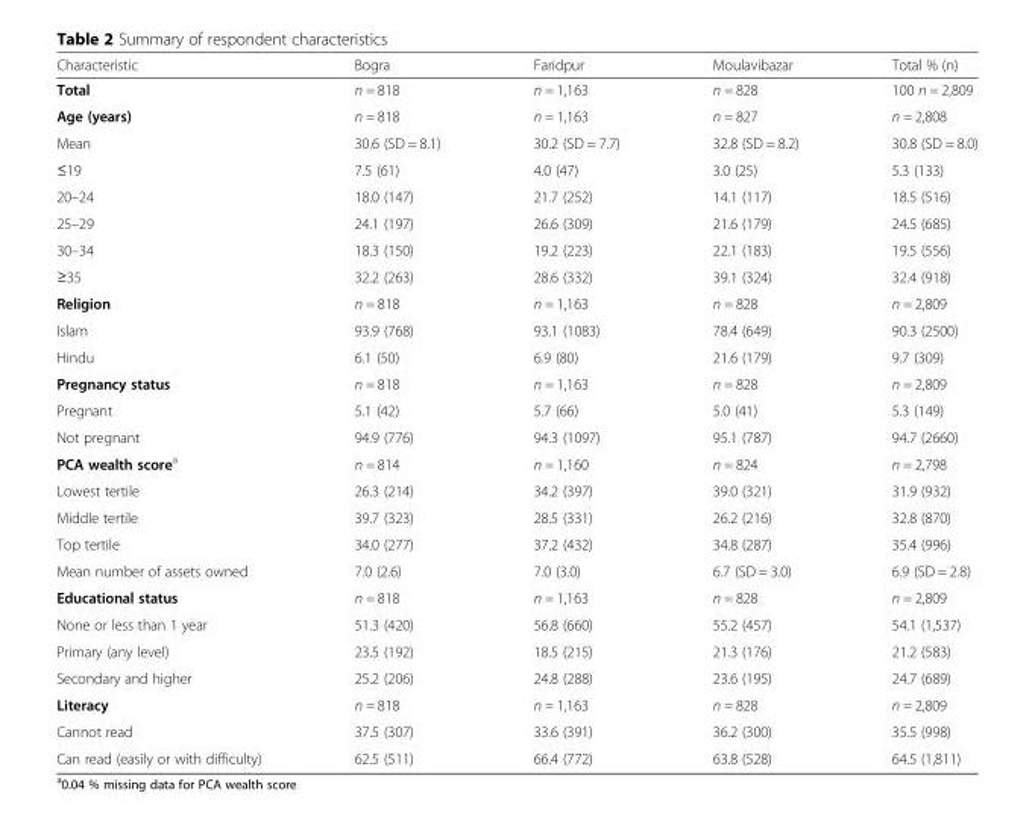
<table><thead><tr><td>Characteristic</td><td>Bogra</td><td>Faridpur</td><td>Moulavibazar</td><td>Total % (n)</td></tr></thead><tbody><tr><td>Total</td><td>n = 818</td><td>n = 1,163</td><td>n = 828</td><td>100 n = 2,809</td></tr><tr><td>Age (years)</td><td>n = 818</td><td>n = 1,163</td><td>n = 827</td><td>n = 2,808</td></tr><tr><td>Mean</td><td>30.6 (SD = 8.1)</td><td>30.2 (SD = 7.7)</td><td>32.8 (SD = 8.2)</td><td>30.8 (SD = 8.0)</td></tr><tr><td>≤19</td><td>7.5 (61)</td><td>4.0 (47)</td><td>3.0 (25)</td><td>5.3 (133)</td></tr><tr><td>20–24</td><td>18.0 (147)</td><td>21.7 (252)</td><td>14.1 (117)</td><td>18.5 (516)</td></tr><tr><td>25–29</td><td>24.1 (197)</td><td>26.6 (309)</td><td>21.6 (179)</td><td>24.5 (685)</td></tr><tr><td>30–34</td><td>18.3 (150)</td><td>19.2 (223)</td><td>22.1 (183)</td><td>19.5 (556)</td></tr><tr><td>≥35</td><td>32.2 (263)</td><td>28.6 (332)</td><td>39.1 (324)</td><td>32.4 (918)</td></tr><tr><td>Religion</td><td>n = 818</td><td>n = 1,163</td><td>n = 828</td><td>n = 2,809</td></tr><tr><td>Islam</td><td>93.9 (768)</td><td>93.1 (1083)</td><td>78.4 (649)</td><td>90.3 (2500)</td></tr><tr><td>Hindu</td><td>6.1 (50)</td><td>6.9 (80)</td><td>21.6 (179)</td><td>9.7 (309)</td></tr><tr><td>Pregnancy status</td><td>n = 818</td><td>n = 1,163</td><td>n = 828</td><td>n = 2,809</td></tr><tr><td>Pregnant</td><td>5.1 (42)</td><td>5.7 (66)</td><td>5.0 (41)</td><td>5.3 (149)</td></tr><tr><td>Not pregnant</td><td>94.9 (776)</td><td>94.3 (1097)</td><td>95.1 (787)</td><td>94.7 (2660)</td></tr><tr><td>PCA wealth score<sup>a</sup></td><td>n = 814</td><td>n = 1,160</td><td>n = 824</td><td>n = 2,798</td></tr><tr><td>Lowest tertile</td><td>26.3 (214)</td><td>34.2 (397)</td><td>39.0 (321)</td><td>31.9 (932)</td></tr><tr><td>Middle tertile</td><td>39.7 (323)</td><td>28.5 (331)</td><td>26.2 (216)</td><td>32.8 (870)</td></tr><tr><td>Top tertile</td><td>34.0 (277)</td><td>37.2 (432)</td><td>34.8 (287)</td><td>35.4 (996)</td></tr><tr><td>Mean number of assets owned</td><td>7.0 (2.6)</td><td>7.0 (3.0)</td><td>6.7 (SD = 3.0)</td><td>6.9 (SD = 2.8)</td></tr><tr><td>Educational status</td><td>n = 818</td><td>n = 1,163</td><td>n = 828</td><td>n = 2,809</td></tr><tr><td>None or less than 1 year</td><td>51.3 (420)</td><td>56.8 (660)</td><td>55.2 (457)</td><td>54.1 (1,537)</td></tr><tr><td>Primary (any level)</td><td>23.5 (192)</td><td>18.5 (215)</td><td>21.3 (176)</td><td>21.2 (583)</td></tr><tr><td>Secondary and higher</td><td>25.2 (206)</td><td>24.8 (288)</td><td>23.6 (195)</td><td>24.7 (689)</td></tr><tr><td>Literacy</td><td>n = 818</td><td>n = 1,163</td><td>n = 828</td><td>n = 2,809</td></tr><tr><td>Cannot read</td><td>37.5 (307)</td><td>33.6 (391)</td><td>36.2 (300)</td><td>35.5 (998)</td></tr><tr><td>Can read (easily or with difficulty)</td><td>62.5 (511)</td><td>66.4 (772)</td><td>63.8 (528)</td><td>64.5 (1,811)</td></tr></tbody></table>